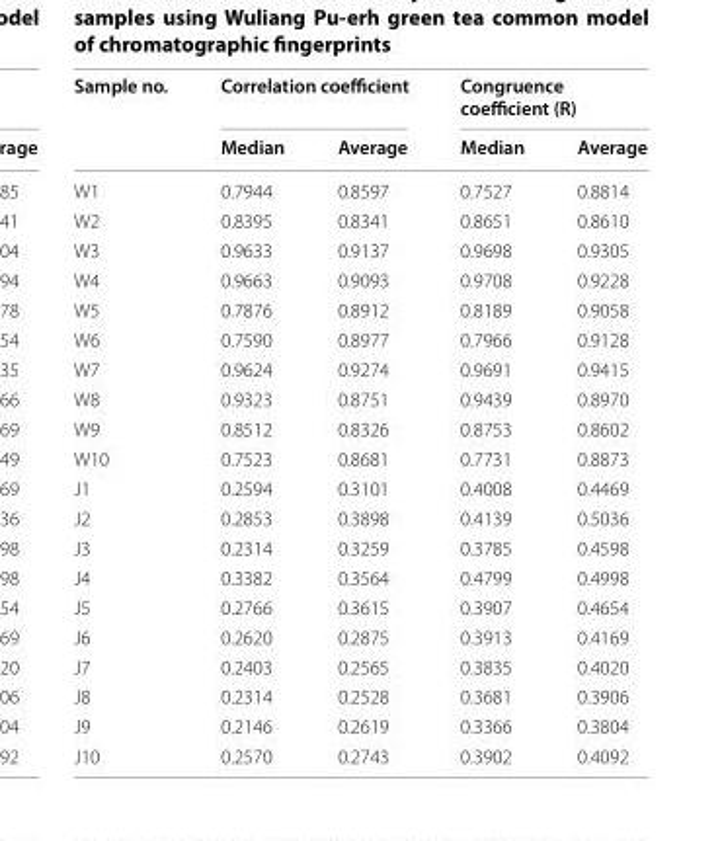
<table><thead><tr><td rowspan="2">Sample no.</td><td colspan="2">Correlation coefficient</td><td colspan="2">Congruence coefficient (R)</td></tr><tr><td>Median</td><td>Average</td><td>Median</td><td>Average</td></tr></thead><tbody><tr><td>W1</td><td>0.7944</td><td>0.8597</td><td>0.7527</td><td>0.8814</td></tr><tr><td>W2</td><td>0.8395</td><td>0.8341</td><td>0.8651</td><td>0.8610</td></tr><tr><td>W3</td><td>0.9633</td><td>0.9137</td><td>0.9698</td><td>0.9305</td></tr><tr><td>W4</td><td>0.9663</td><td>0.9093</td><td>0.9708</td><td>0.9228</td></tr><tr><td>W5</td><td>0.7876</td><td>0.8912</td><td>0.8189</td><td>0.9058</td></tr><tr><td>W6</td><td>0.7590</td><td>0.8977</td><td>0.7966</td><td>0.9128</td></tr><tr><td>W7</td><td>0.9624</td><td>0.9274</td><td>0.9691</td><td>0.9415</td></tr><tr><td>W8</td><td>0.9323</td><td>0.8751</td><td>0.9439</td><td>0.8970</td></tr><tr><td>W9</td><td>0.8512</td><td>0.8326</td><td>0.8753</td><td>0.8602</td></tr><tr><td>W10</td><td>0.7523</td><td>0.8681</td><td>0.7731</td><td>0.8873</td></tr><tr><td>J1</td><td>0.2594</td><td>0.3101</td><td>0.4008</td><td>0.4469</td></tr><tr><td>J2</td><td>0.2853</td><td>0.3898</td><td>0.4139</td><td>0.5036</td></tr><tr><td>J3</td><td>0.2314</td><td>0.3259</td><td>0.3785</td><td>0.4598</td></tr><tr><td>J4</td><td>0.3382</td><td>0.3564</td><td>0.4799</td><td>0.4998</td></tr><tr><td>J5</td><td>0.2766</td><td>0.3615</td><td>0.3907</td><td>0.4654</td></tr><tr><td>J6</td><td>0.2620</td><td>0.2875</td><td>0.3913</td><td>0.4169</td></tr><tr><td>J7</td><td>0.2403</td><td>0.2565</td><td>0.3835</td><td>0.4020</td></tr><tr><td>J8</td><td>0.2314</td><td>0.2528</td><td>0.3681</td><td>0.3906</td></tr><tr><td>J9</td><td>0.2146</td><td>0.2619</td><td>0.3366</td><td>0.3804</td></tr><tr><td>J10</td><td>0.2570</td><td>0.2743</td><td>0.3902</td><td>0.4092</td></tr></tbody></table>